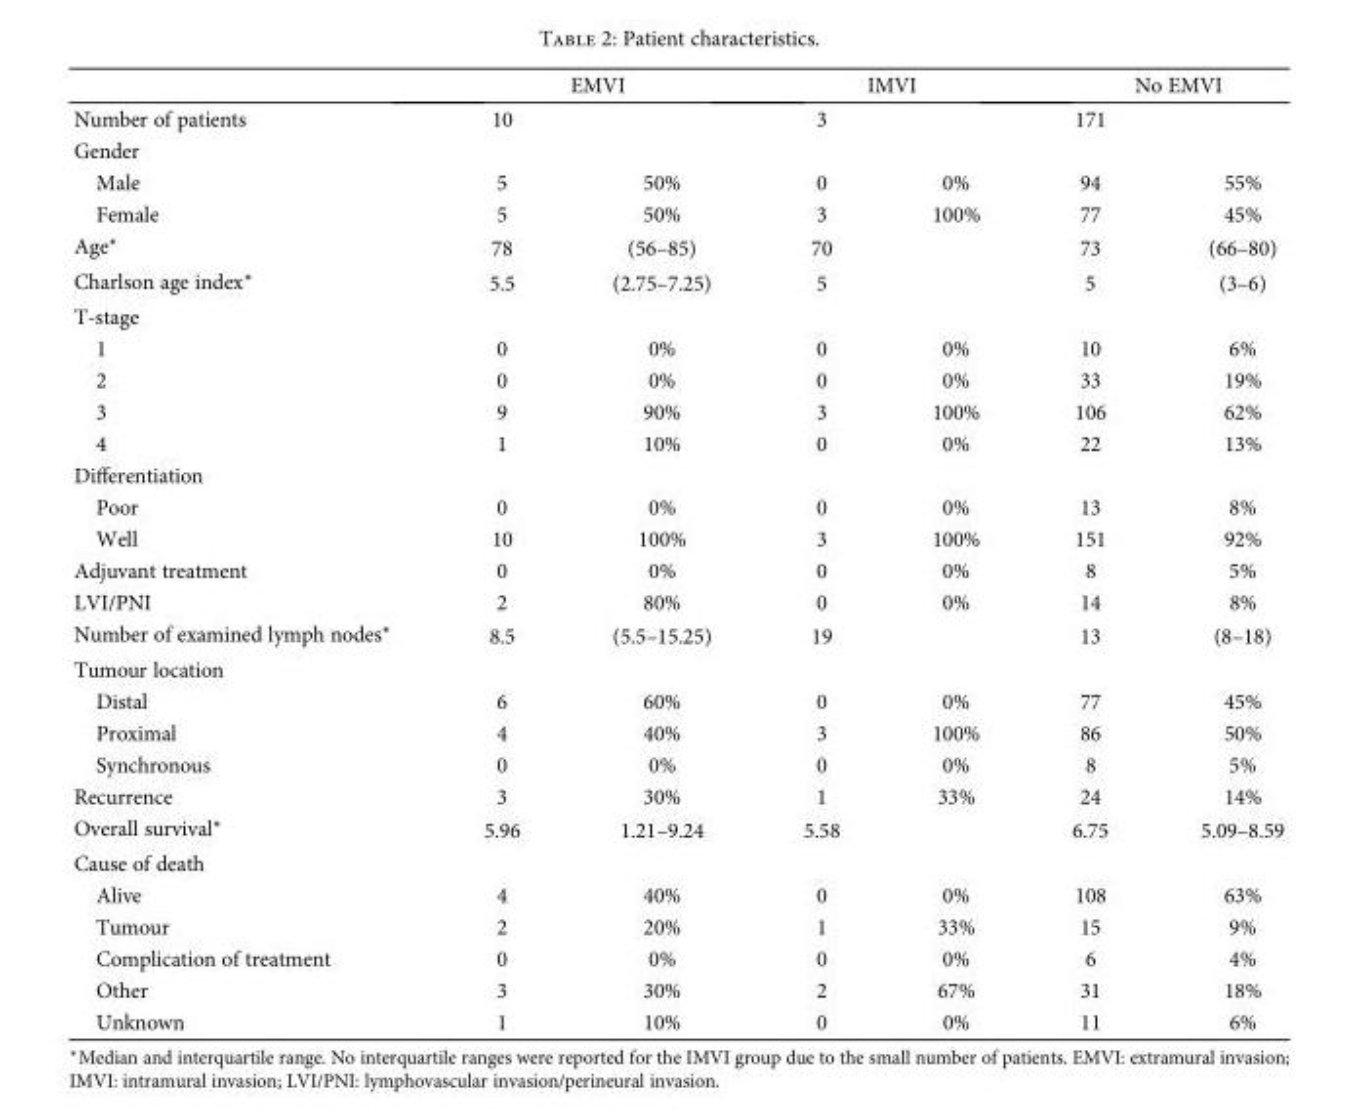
<table><thead><tr><td rowspan="2">Number of patients</td><td colspan="2">EMVI</td><td colspan="2">IMVI</td><td colspan="2">No EMVI</td></tr><tr><td>10</td><td></td><td>3</td><td></td><td>171</td><td></td></tr></thead><tbody><tr><td colspan="7">Gender</td></tr><tr><td>Male</td><td>5</td><td>50%</td><td>0</td><td>0%</td><td>94</td><td>55%</td></tr><tr><td>Female</td><td>5</td><td>50%</td><td>3</td><td>100%</td><td>77</td><td>45%</td></tr><tr><td>Age∗</td><td>78</td><td>(56–85)</td><td>70</td><td></td><td>73</td><td>(66–80)</td></tr><tr><td>Charlson age index∗</td><td>5.5</td><td>(2.75–7.25)</td><td>5</td><td></td><td>5</td><td>(3–6)</td></tr><tr><td colspan="7">T-stage</td></tr><tr><td>1</td><td>0</td><td>0%</td><td>0</td><td>0%</td><td>10</td><td>6%</td></tr><tr><td>2</td><td>0</td><td>0%</td><td>0</td><td>0%</td><td>33</td><td>19%</td></tr><tr><td>3</td><td>9</td><td>90%</td><td>3</td><td>100%</td><td>106</td><td>62%</td></tr><tr><td>4</td><td>1</td><td>10%</td><td>0</td><td>0%</td><td>22</td><td>13%</td></tr><tr><td colspan="7">Differentiation</td></tr><tr><td>Poor</td><td>0</td><td>0%</td><td>0</td><td>0%</td><td>13</td><td>8%</td></tr><tr><td>Well</td><td>10</td><td>100%</td><td>3</td><td>100%</td><td>151</td><td>92%</td></tr><tr><td>Adjuvant treatment</td><td>0</td><td>0%</td><td>0</td><td>0%</td><td>8</td><td>5%</td></tr><tr><td>LVI/PNI</td><td>2</td><td>80%</td><td>0</td><td>0%</td><td>14</td><td>8%</td></tr><tr><td>Number of examined lymph nodes∗</td><td>8.5</td><td>(5.5–15.25)</td><td>19</td><td></td><td>13</td><td>(8–18)</td></tr><tr><td colspan="7">Tumour location</td></tr><tr><td>Distal</td><td>6</td><td>60%</td><td>0</td><td>0%</td><td>77</td><td>45%</td></tr><tr><td>Proximal</td><td>4</td><td>40%</td><td>3</td><td>100%</td><td>86</td><td>50%</td></tr><tr><td>Synchronous</td><td>0</td><td>0%</td><td>0</td><td>0%</td><td>8</td><td>5%</td></tr><tr><td>Recurrence</td><td>3</td><td>30%</td><td>1</td><td>33%</td><td>24</td><td>14%</td></tr><tr><td>Overall survival∗</td><td>5.96</td><td>1.21–9.24</td><td>5.58</td><td></td><td>6.75</td><td>5.09–8.59</td></tr><tr><td colspan="7">Cause of death</td></tr><tr><td>Alive</td><td>4</td><td>40%</td><td>0</td><td>0%</td><td>108</td><td>63%</td></tr><tr><td>Tumour</td><td>2</td><td>20%</td><td>1</td><td>33%</td><td>15</td><td>9%</td></tr><tr><td>Complication of treatment</td><td>0</td><td>0%</td><td>0</td><td>0%</td><td>6</td><td>4%</td></tr><tr><td>Other</td><td>3</td><td>30%</td><td>2</td><td>67%</td><td>31</td><td>18%</td></tr><tr><td>Unknown</td><td>1</td><td>10%</td><td>0</td><td>0%</td><td>11</td><td>6%</td></tr></tbody></table>